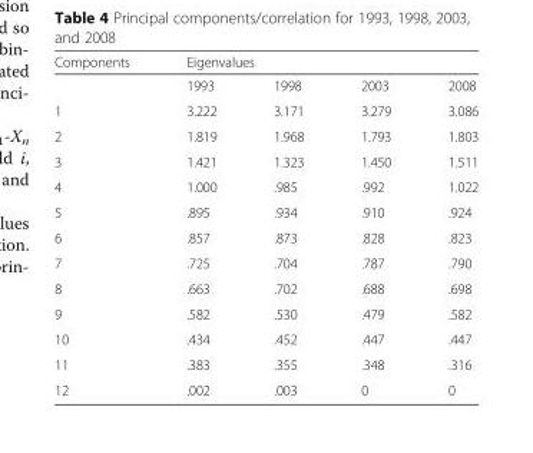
<table><thead><tr><td rowspan="2">Components</td><td colspan="4">Eigenvalues</td></tr><tr><td>1993</td><td>1998</td><td>2003</td><td>2008</td></tr></thead><tbody><tr><td>1</td><td>3.222</td><td>3.171</td><td>3.279</td><td>3.086</td></tr><tr><td>2</td><td>1.819</td><td>1.968</td><td>1.793</td><td>1.803</td></tr><tr><td>3</td><td>1.421</td><td>1.323</td><td>1.450</td><td>1.511</td></tr><tr><td>4</td><td>1.000</td><td>.985</td><td>.992</td><td>1.022</td></tr><tr><td>5</td><td>.895</td><td>.934</td><td>.910</td><td>.924</td></tr><tr><td>6</td><td>.857</td><td>.873</td><td>.828</td><td>.823</td></tr><tr><td>7</td><td>.725</td><td>.704</td><td>.787</td><td>.790</td></tr><tr><td>8</td><td>.663</td><td>.702</td><td>.688</td><td>.698</td></tr><tr><td>9</td><td>.582</td><td>.530</td><td>.479</td><td>.582</td></tr><tr><td>10</td><td>.434</td><td>.452</td><td>.447</td><td>.447</td></tr><tr><td>11</td><td>.383</td><td>.355</td><td>.348</td><td>.316</td></tr><tr><td>12</td><td>.002</td><td>.003</td><td>0</td><td>0</td></tr></tbody></table>